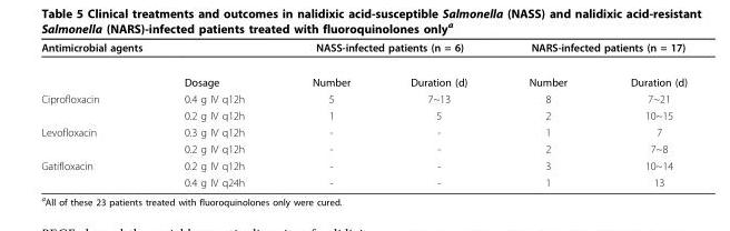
<table><thead><tr><td rowspan="2">Antimicrobial agents</td><td rowspan="2">Dosage</td><td colspan="2">NASS-infected patients (n = 6)</td><td colspan="2">NARS-infected patients (n = 17)</td></tr><tr><td>Number</td><td>Duration (d)</td><td>Number</td><td>Duration (d)</td></tr></thead><tbody><tr><td rowspan="2">Ciprofloxacin</td><td>0.4 g IV q12h</td><td>5</td><td>7~13</td><td>8</td><td>7~21</td></tr><tr><td>0.2 g IV q12h</td><td>1</td><td>5</td><td>2</td><td>10~15</td></tr><tr><td rowspan="2">Levofloxacin</td><td>0.3 g IV q12h</td><td>-</td><td>-</td><td>1</td><td>7</td></tr><tr><td>0.2 g IV q12h</td><td>-</td><td>-</td><td>2</td><td>7~8</td></tr><tr><td rowspan="2">Gatifloxacin</td><td>0.2 g IV q12h</td><td>-</td><td>-</td><td>3</td><td>10~14</td></tr><tr><td>0.4 g IV q24h</td><td>-</td><td>-</td><td>1</td><td>13</td></tr></tbody></table>